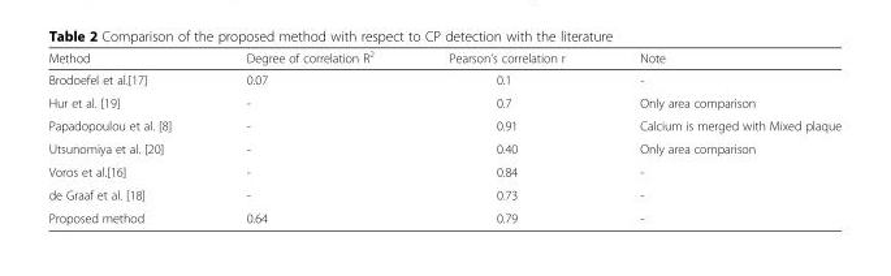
<table><thead><tr><td>Method</td><td>Degree of correlation R<sup>2</sup></td><td>Pearson&#x27;s correlation r</td><td>Note</td></tr></thead><tbody><tr><td>Brodoefel et al.[17]</td><td>0.07</td><td>0.1</td><td>-</td></tr><tr><td>Hur et al. [19]</td><td>-</td><td>0.7</td><td>Only area comparison</td></tr><tr><td>Papadopoulou et al. [8]</td><td>-</td><td>0.91</td><td>Calcium is merged with Mixed plaque</td></tr><tr><td>Utsunomiya et al. [20]</td><td>-</td><td>0.40</td><td>Only area comparison</td></tr><tr><td>Voros et al.[16]</td><td>-</td><td>0.84</td><td>-</td></tr><tr><td>de Graaf et al. [18]</td><td>-</td><td>0.73</td><td>-</td></tr><tr><td>Proposed method</td><td>0.64</td><td>0.79</td><td>-</td></tr></tbody></table>